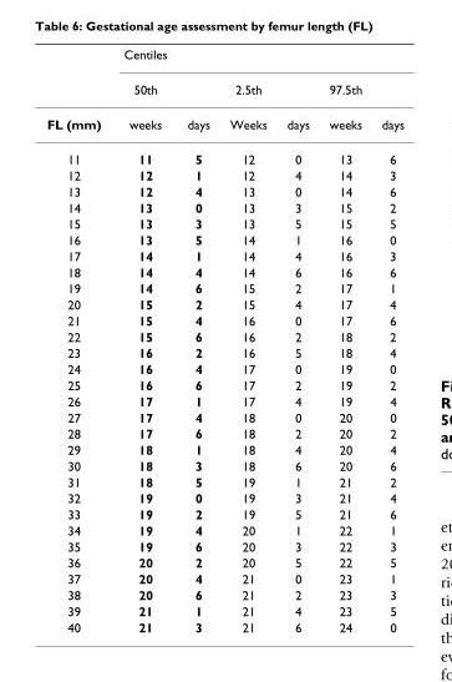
<table><thead><tr><td rowspan="2"></td><td rowspan="2">Centiles 50th</td><td rowspan="2"></td><td rowspan="2">2.5th</td><td rowspan="2"></td><td rowspan="2">97.5th</td><td rowspan="2"></td></tr><tr></tr></thead><tbody><tr><td>FL (mm)</td><td>weeks</td><td>days</td><td>Weeks</td><td>days</td><td>weeks</td><td>days</td></tr><tr><td>11</td><td>11</td><td>5</td><td>12</td><td>0</td><td>13</td><td>6</td></tr><tr><td>12</td><td>12</td><td>1</td><td>12</td><td>4</td><td>14</td><td>3</td></tr><tr><td>13</td><td>12</td><td>4</td><td>13</td><td>0</td><td>14</td><td>6</td></tr><tr><td>14</td><td>13</td><td>0</td><td>13</td><td>3</td><td>15</td><td>2</td></tr><tr><td>15</td><td>13</td><td>3</td><td>13</td><td>5</td><td>15</td><td>5</td></tr><tr><td>16</td><td>13</td><td>5</td><td>14</td><td>1</td><td>16</td><td>0</td></tr><tr><td>17</td><td>14</td><td>1</td><td>14</td><td>4</td><td>16</td><td>3</td></tr><tr><td>18</td><td>14</td><td>4</td><td>14</td><td>6</td><td>16</td><td>6</td></tr><tr><td>19</td><td>14</td><td>6</td><td>15</td><td>2</td><td>17</td><td>1</td></tr><tr><td>20</td><td>15</td><td>2</td><td>15</td><td>4</td><td>17</td><td>4</td></tr><tr><td>21</td><td>15</td><td>4</td><td>16</td><td>0</td><td>17</td><td>6</td></tr><tr><td>22</td><td>15</td><td>6</td><td>16</td><td>2</td><td>18</td><td>2</td></tr><tr><td>23</td><td>16</td><td>2</td><td>16</td><td>5</td><td>18</td><td>4</td></tr><tr><td>24</td><td>16</td><td>4</td><td>17</td><td>0</td><td>19</td><td>0</td></tr><tr><td>25</td><td>16</td><td>6</td><td>17</td><td>2</td><td>19</td><td>2</td></tr><tr><td>26</td><td>17</td><td>1</td><td>17</td><td>4</td><td>19</td><td>4</td></tr><tr><td>27</td><td>17</td><td>4</td><td>18</td><td>0</td><td>20</td><td>0</td></tr><tr><td>28</td><td>17</td><td>6</td><td>18</td><td>2</td><td>20</td><td>2</td></tr><tr><td>29</td><td>18</td><td>1</td><td>18</td><td>4</td><td>20</td><td>4</td></tr><tr><td>30</td><td>18</td><td>3</td><td>18</td><td>6</td><td>20</td><td>6</td></tr><tr><td>31</td><td>18</td><td>5</td><td>19</td><td>1</td><td>21</td><td>2</td></tr><tr><td>32</td><td>19</td><td>0</td><td>19</td><td>3</td><td>21</td><td>4</td></tr><tr><td>33</td><td>19</td><td>2</td><td>19</td><td>5</td><td>21</td><td>6</td></tr><tr><td>34</td><td>19</td><td>4</td><td>20</td><td>1</td><td>22</td><td>1</td></tr><tr><td>35</td><td>19</td><td>6</td><td>20</td><td>3</td><td>22</td><td>3</td></tr><tr><td>36</td><td>20</td><td>2</td><td>20</td><td>5</td><td>22</td><td>5</td></tr><tr><td>37</td><td>20</td><td>4</td><td>21</td><td>0</td><td>23</td><td>1</td></tr><tr><td>38</td><td>20</td><td>6</td><td>21</td><td>2</td><td>23</td><td>3</td></tr><tr><td>39</td><td>21</td><td>1</td><td>21</td><td>4</td><td>23</td><td>5</td></tr><tr><td>40</td><td>21</td><td>3</td><td>21</td><td>6</td><td>24</td><td>0</td></tr></tbody></table>